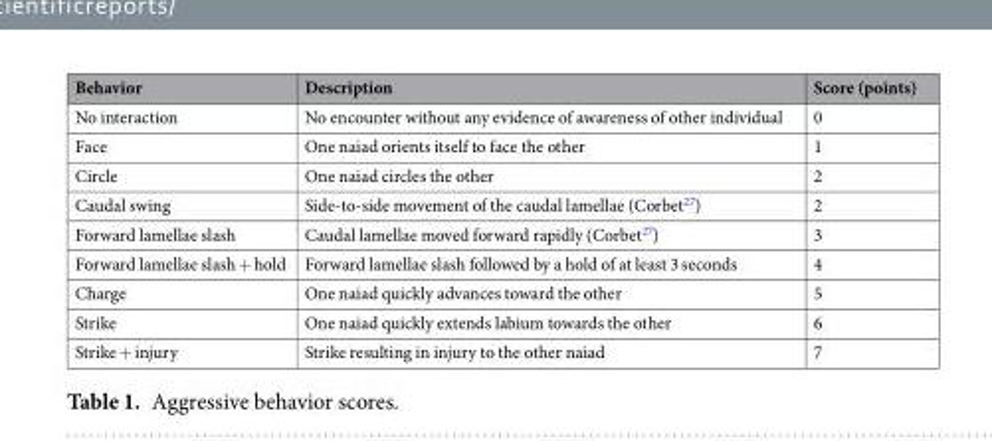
<table><thead><tr><td>Behavior</td><td>Description</td><td>Score (points)</td></tr></thead><tbody><tr><td>No interaction</td><td>No encounter without any evidence of awareness of other individual</td><td>0</td></tr><tr><td>Face</td><td>One naiad orients itself to face the other</td><td>1</td></tr><tr><td>Circle</td><td>One naiad circles the other</td><td>2</td></tr><tr><td>Caudal swing</td><td>Side-to-side movement of the caudal lamellae (Corbet<sup>27</sup>)</td><td>2</td></tr><tr><td>Forward lamellae slash</td><td>Caudal lamellae moved forward rapidly (Corbet<sup>27</sup>)</td><td>3</td></tr><tr><td>Forward lamellae slash + hold</td><td>Forward lamellae slash followed by a hold of at least 3 seconds</td><td>4</td></tr><tr><td>Charge</td><td>One naiad quickly advances toward the other</td><td>5</td></tr><tr><td>Strike</td><td>One naiad quickly extends labium towards the other</td><td>6</td></tr><tr><td>Strike + injury</td><td>Strike resulting in injury to the other naiad</td><td>7</td></tr></tbody></table>